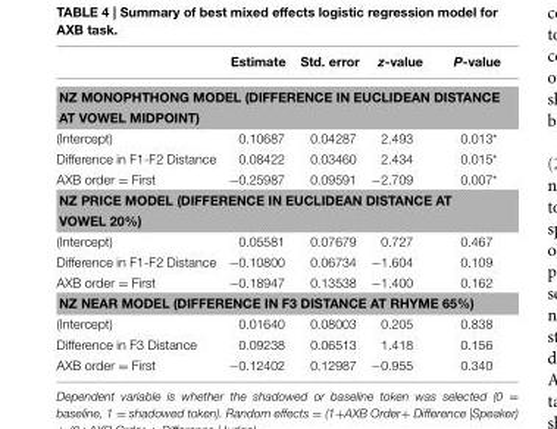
<table><thead><tr><td></td><td>Estimate</td><td>Std. error</td><td>z-value</td><td>P-value</td></tr></thead><tbody><tr><td colspan="5">NZ MONOPHTHONG MODEL (DIFFERENCE IN EUCLIDEAN DISTANCE</td></tr><tr><td colspan="5">AT VOWEL MIDPOINT)</td></tr><tr><td>(Intercept)</td><td>0.10687</td><td>0.04287</td><td>2.493</td><td>0.013*</td></tr><tr><td>Difference in F1-F2 Distance</td><td>0.08422</td><td>0.03460</td><td>2.434</td><td>0.015*</td></tr><tr><td>AXB order = First</td><td>−0.25987</td><td>0.09591</td><td>−2.709</td><td>0.007*</td></tr><tr><td colspan="5">NZ PRICE MODEL (DIFFERENCE IN EUCLIDEAN DISTANCE AT VOWEL 20%)</td></tr><tr><td>(Intercept)</td><td>0.05581</td><td>0.07679</td><td>0.727</td><td>0.467</td></tr><tr><td>Difference in F1-F2 Distance</td><td>−0.10800</td><td>0.06734</td><td>−1.604</td><td>0.109</td></tr><tr><td>AXB order = First</td><td>−0.18947</td><td>0.13538</td><td>−1.400</td><td>0.162</td></tr><tr><td colspan="5">NZ NEAR MODEL (DIFFERENCE IN F3 DISTANCE AT RHYME 65%)</td></tr><tr><td>(Intercept)</td><td>0.01640</td><td>0.08003</td><td>0.205</td><td>0.838</td></tr><tr><td>Difference in F3 Distance</td><td>0.09238</td><td>0.06513</td><td>1.418</td><td>0.156</td></tr><tr><td>AXB order = First</td><td>−0.12402</td><td>0.12987</td><td>−0.955</td><td>0.340</td></tr></tbody></table>